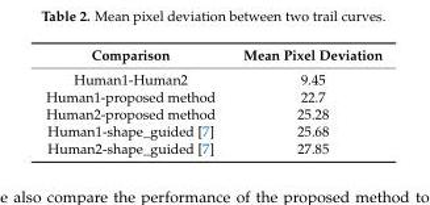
<table><thead><tr><td>Comparison</td><td>Mean Pixel Deviation</td></tr></thead><tbody><tr><td>Human1-Human2</td><td>9.45</td></tr><tr><td>Human1-proposed method</td><td>22.7</td></tr><tr><td>Human2-proposed method</td><td>25.28</td></tr><tr><td>Human1-shape_guided [7]</td><td>25.68</td></tr><tr><td>Human2-shape_guided [7]</td><td>27.85</td></tr></tbody></table>